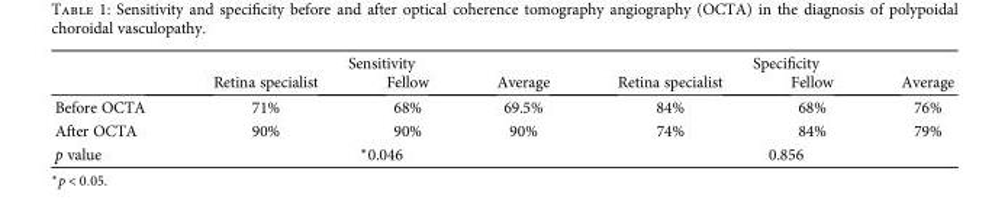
<table><thead><tr><td rowspan="2"></td><td colspan="3">Sensitivity</td><td colspan="3">Specificity</td></tr><tr><td>Retina specialist</td><td>Fellow</td><td>Average</td><td>Retina specialist</td><td>Fellow</td><td>Average</td></tr></thead><tbody><tr><td>Before OCTA</td><td>71%</td><td>68%</td><td>69.5%</td><td>84%</td><td>68%</td><td>76%</td></tr><tr><td>After OCTA</td><td>90%</td><td>90%</td><td>90%</td><td>74%</td><td>84%</td><td>79%</td></tr><tr><td>p value</td><td colspan="3">∗0.046</td><td colspan="3">0.856</td></tr></tbody></table>